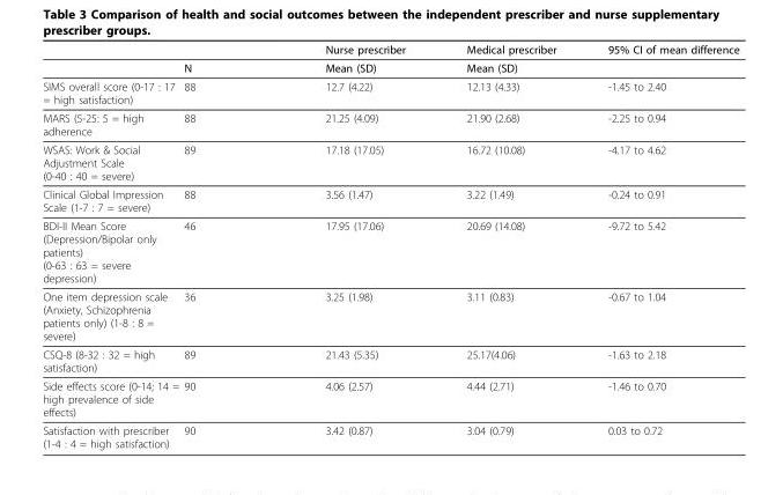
<table><thead><tr><td></td><td></td><td>Nurse prescriber</td><td>Medical prescriber</td><td>95% CI of mean difference</td></tr></thead><tbody><tr><td></td><td>N</td><td>Mean (SD)</td><td>Mean (SD)</td><td></td></tr><tr><td>SIMS overall score (0-17 : 17 = high satisfaction)</td><td>88</td><td>12.7 (4.22)</td><td>12.13 (4.33)</td><td>-1.45 to 2.40</td></tr><tr><td>MARS (5-25: 5 = high adherence</td><td>88</td><td>21.25 (4.09)</td><td>21.90 (2.68)</td><td>-2.25 to 0.94</td></tr><tr><td>WSAS: Work &amp; Social Adjustment Scale (0-40 : 40 = severe)</td><td>89</td><td>17.18 (17.05)</td><td>16.72 (10.08)</td><td>-4.17 to 4.62</td></tr><tr><td>Clinical Global Impression Scale (1-7 : 7 = severe)</td><td>88</td><td>3.56 (1.47)</td><td>3.22 (1.49)</td><td>-0.24 to 0.91</td></tr><tr><td>BDI-II Mean Score (Depression/Bipolar only patients) (0-63 : 63 = severe depression)</td><td>46</td><td>17.95 (17.06)</td><td>20.69 (14.08)</td><td>-9.72 to 5.42</td></tr><tr><td>One item depression scale (Anxiety, Schizophrenia patients only) (1-8 : 8 = severe)</td><td>36</td><td>3.25 (1.98)</td><td>3.11 (0.83)</td><td>-0.67 to 1.04</td></tr><tr><td>CSQ-8 (8-32 : 32 = high satisfaction)</td><td>89</td><td>21.43 (5.35)</td><td>25.17(4.06)</td><td>-1.63 to 2.18</td></tr><tr><td>Side effects score (0-14; 14 = high prevalence of side effects)</td><td>90</td><td>4.06 (2.57)</td><td>4.44 (2.71)</td><td>-1.46 to 0.70</td></tr><tr><td>Satisfaction with prescriber (1-4 : 4 = high satisfaction)</td><td>90</td><td>3.42 (0.87)</td><td>3.04 (0.79)</td><td>0.03 to 0.72</td></tr></tbody></table>